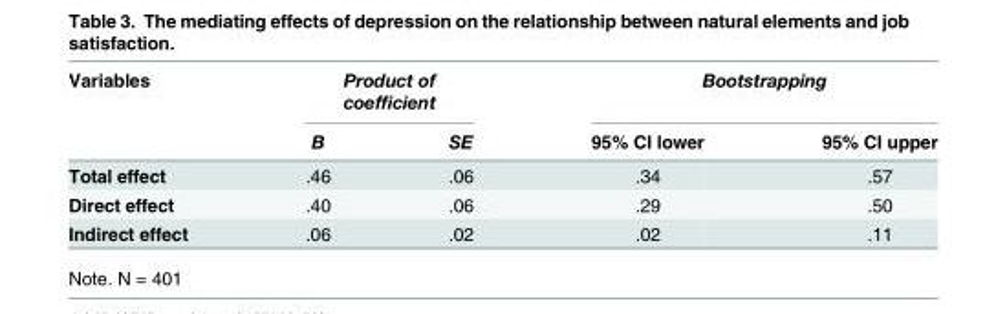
<table><thead><tr><td rowspan="2">Variables</td><td colspan="2">Product of coefficient</td><td colspan="2">Bootstrapping</td></tr><tr><td>B</td><td>SE</td><td>95% CI lower</td><td>95% CI upper</td></tr></thead><tbody><tr><td>Total effect</td><td>.46</td><td>.06</td><td>.34</td><td>.57</td></tr><tr><td>Direct effect</td><td>.40</td><td>.06</td><td>.29</td><td>.50</td></tr><tr><td>Indirect effect</td><td>.06</td><td>.02</td><td>.02</td><td>.11</td></tr></tbody></table>